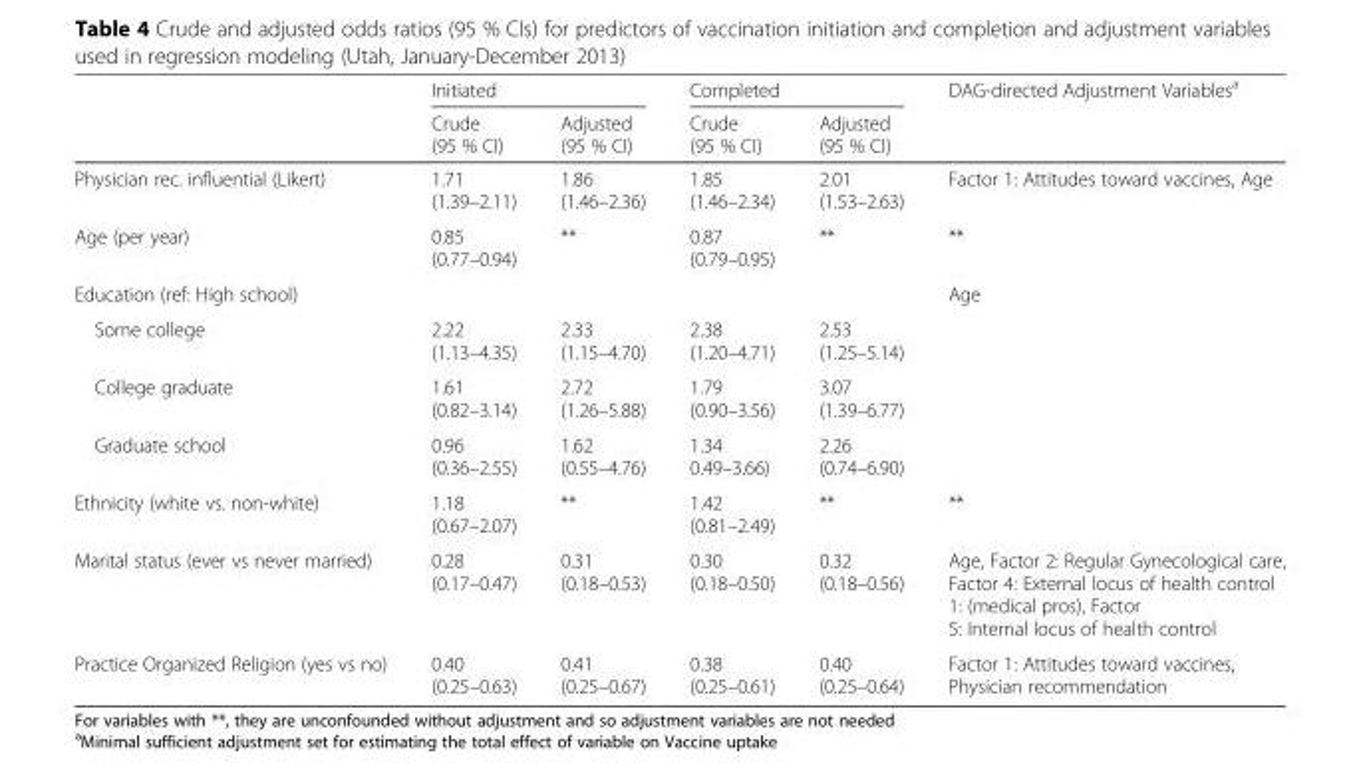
<table><thead><tr><td rowspan="2"></td><td colspan="2">Initiated</td><td colspan="2">Completed</td><td rowspan="2">DAG-directed Adjustment Variables<sup>a</sup></td></tr><tr><td>Crude (95 % CI)</td><td>Adjusted (95 % CI)</td><td>Crude (95 % CI)</td><td>Adjusted (95 % CI)</td></tr></thead><tbody><tr><td>Physician rec. influential (Likert)</td><td>1.71 (1.39–2.11)</td><td>1.86 (1.46–2.36)</td><td>1.85 (1.46–2.34)</td><td>2.01 (1.53–2.63)</td><td>Factor 1: Attitudes toward vaccines, Age</td></tr><tr><td>Age (per year)</td><td>0.85 (0.77–0.94)</td><td>**</td><td>0.87 (0.79–0.95)</td><td>**</td><td>**</td></tr><tr><td colspan="5">Education (ref: High school)</td><td rowspan="4">Age</td></tr><tr><td>Some college</td><td>2.22 (1.13–4.35)</td><td>2.33 (1.15–4.70)</td><td>2.38 (1.20–4.71)</td><td>2.53 (1.25–5.14)</td></tr><tr><td>College graduate</td><td>1.61 (0.82–3.14)</td><td>2.72 (1.26–5.88)</td><td>1.79 (0.90–3.56)</td><td>3.07 (1.39–6.77)</td></tr><tr><td>Graduate school</td><td>0.96 (0.36–2.55)</td><td>1.62 (0.55–4.76)</td><td>1.34 0.49–3.66)</td><td>2.26 (0.74–6.90)</td></tr><tr><td>Ethnicity (white vs. non-white)</td><td>1.18 (0.67–2.07)</td><td>**</td><td>1.42 (0.81–2.49)</td><td>**</td><td>**</td></tr><tr><td>Marital status (ever vs never married)</td><td>0.28 (0.17–0.47)</td><td>0.31 (0.18–0.53)</td><td>0.30 (0.18–0.50)</td><td>0.32 (0.18–0.56)</td><td>Age, Factor 2: Regular Gynecological care, Factor 4: External locus of health control 1: (medical pros), Factor 5: Internal locus of health control</td></tr><tr><td>Practice Organized Religion (yes vs no)</td><td>0.40 (0.25–0.63)</td><td>0.41 (0.25–0.67)</td><td>0.38 (0.25–0.61)</td><td>0.40 (0.25–0.64)</td><td>Factor 1: Attitudes toward vaccines, Physician recommendation</td></tr></tbody></table>